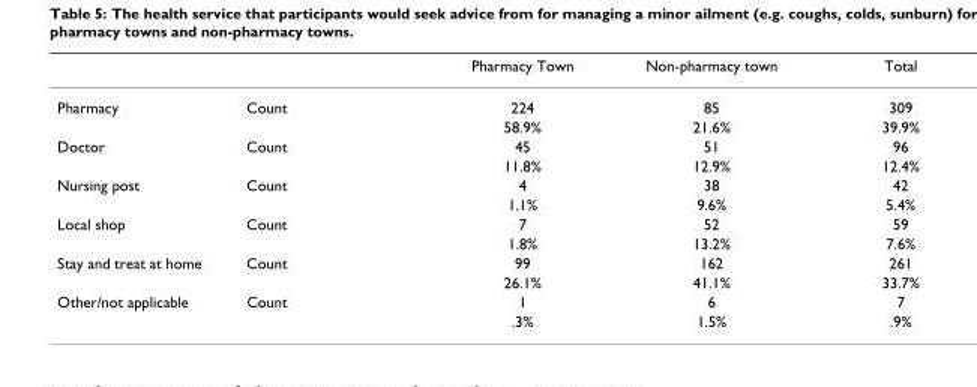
<table><thead><tr><td></td><td></td><td>Pharmacy Town</td><td>Non-pharmacy town</td><td>Total</td></tr></thead><tbody><tr><td rowspan="2">Pharmacy</td><td>Count</td><td>224</td><td>85</td><td>309</td></tr><tr><td></td><td>58.9%</td><td>21.6%</td><td>39.9%</td></tr><tr><td rowspan="2">Doctor</td><td>Count</td><td>45</td><td>51</td><td>96</td></tr><tr><td></td><td>11.8%</td><td>12.9%</td><td>12.4%</td></tr><tr><td rowspan="2">Nursing post</td><td>Count</td><td>4</td><td>38</td><td>42</td></tr><tr><td></td><td>1.1%</td><td>9.6%</td><td>5.4%</td></tr><tr><td rowspan="2">Local shop</td><td>Count</td><td>7</td><td>52</td><td>59</td></tr><tr><td></td><td>1.8%</td><td>13.2%</td><td>7.6%</td></tr><tr><td rowspan="2">Stay and treat at home</td><td>Count</td><td>99</td><td>162</td><td>261</td></tr><tr><td></td><td>26.1%</td><td>41.1%</td><td>33.7%</td></tr><tr><td rowspan="2">Other/not applicable</td><td>Count</td><td>1</td><td>6</td><td>7</td></tr><tr><td></td><td>.3%</td><td>1.5%</td><td>.9%</td></tr></tbody></table>